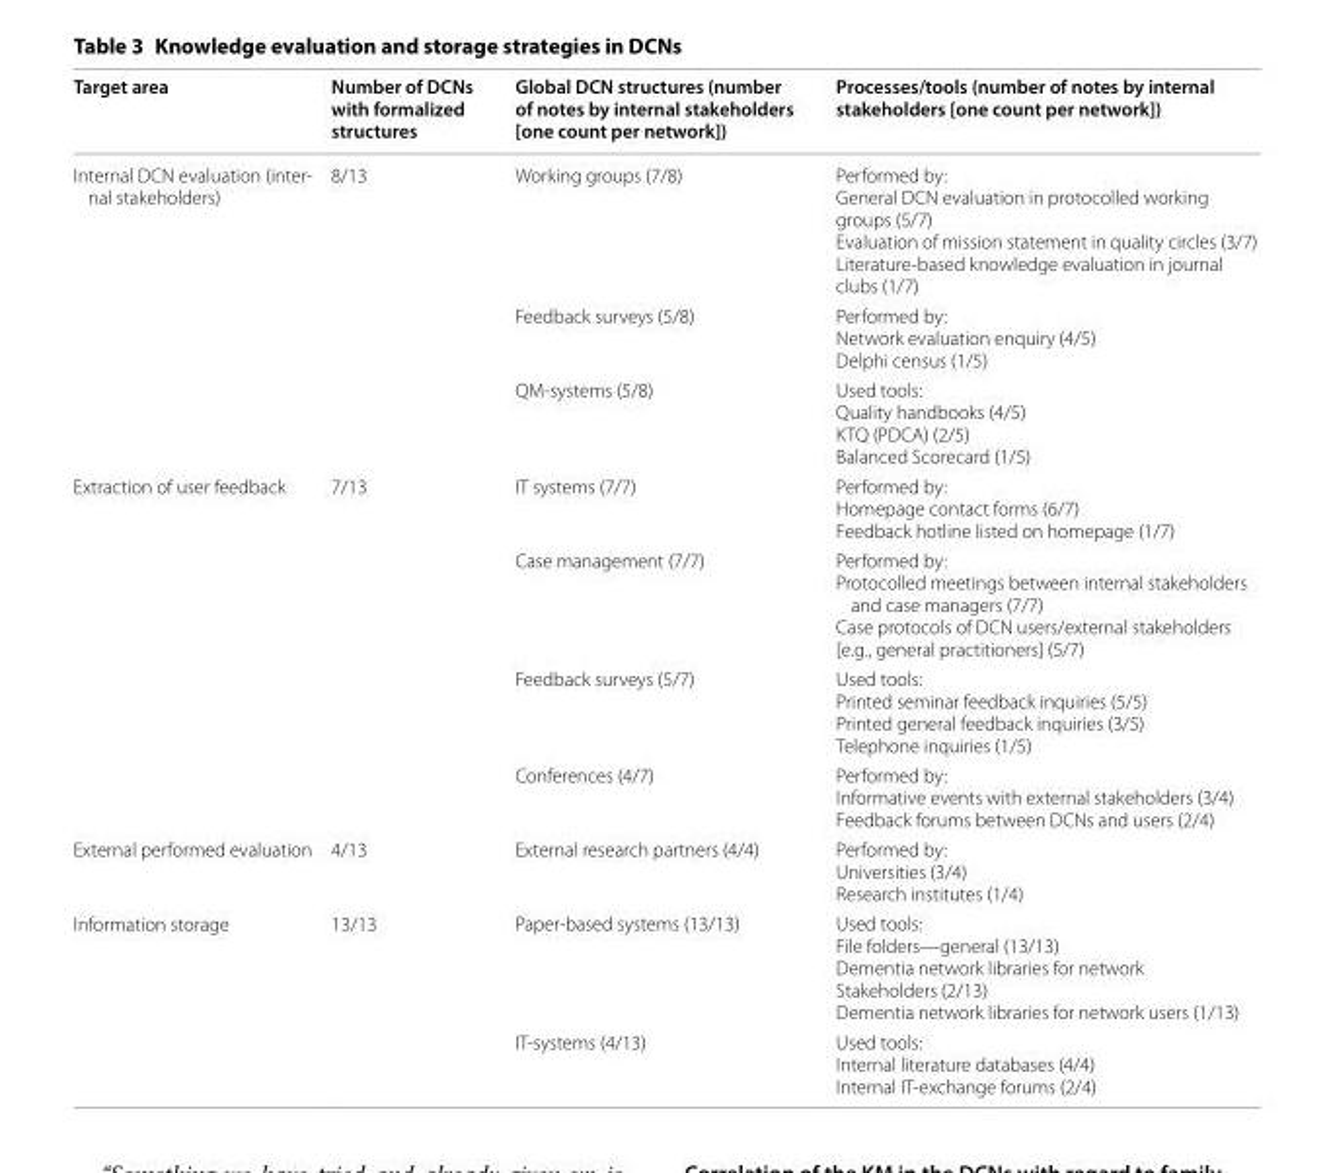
<table><thead><tr><td>Target area</td><td>Number of DCNs with formalized structures</td><td>Global DCN structures (number of notes by internal stakeholders [one count per network])</td><td>Processes/tools (number of notes by internal stakeholders [one count per network])</td></tr></thead><tbody><tr><td rowspan="3">Internal DCN evaluation (inter- nal stakeholders)</td><td rowspan="3">8/13</td><td>Working groups (7/8)</td><td>Performed by: General DCN evaluation in protocolled working groups (5/7) Evaluation of mission statement in quality circles (3/7) Literature-based knowledge evaluation in journal clubs (1/7)</td></tr><tr><td>Feedback surveys (5/8)</td><td>Performed by: Network evaluation enquiry (4/5) Delphi census (1/5)</td></tr><tr><td>QM-systems (5/8)</td><td>Used tools: Quality handbooks (4/5) KTQ (PDCA) (2/5) Balanced Scorecard (1/5)</td></tr><tr><td rowspan="4">Extraction of user feedback</td><td rowspan="4">7/13</td><td>IT systems (7/7)</td><td>Performed by: Homepage contact forms (6/7) Feedback hotline listed on homepage (1/7)</td></tr><tr><td>Case management (7/7)</td><td>Performed by: Protocolled meetings between internal stakeholders and case managers (7/7) Case protocols of DCN users/external stakeholders [e.g., general practitioners] (5/7)</td></tr><tr><td>Feedback surveys (5/7)</td><td>Used tools: Printed seminar feedback inquiries (5/5) Printed general feedback inquiries (3/5) Telephone inquiries (1/5)</td></tr><tr><td>Conferences (4/7)</td><td>Performed by: Informative events with external stakeholders (3/4) Feedback forums between DCNs and users (2/4)</td></tr><tr><td>External performed evaluation</td><td>4/13</td><td>External research partners (4/4)</td><td>Performed by: Universities (3/4) Research institutes (1/4)</td></tr><tr><td rowspan="2">Information storage</td><td rowspan="2">13/13</td><td>Paper-based systems (13/13)</td><td>Used tools: File folders—general (13/13) Dementia network libraries for network Stakeholders (2/13) Dementia network libraries for network users (1/13)</td></tr><tr><td>IT-systems (4/13)</td><td>Used tools: Internal literature databases (4/4) Internal IT-exchange forums (2/4)</td></tr></tbody></table>